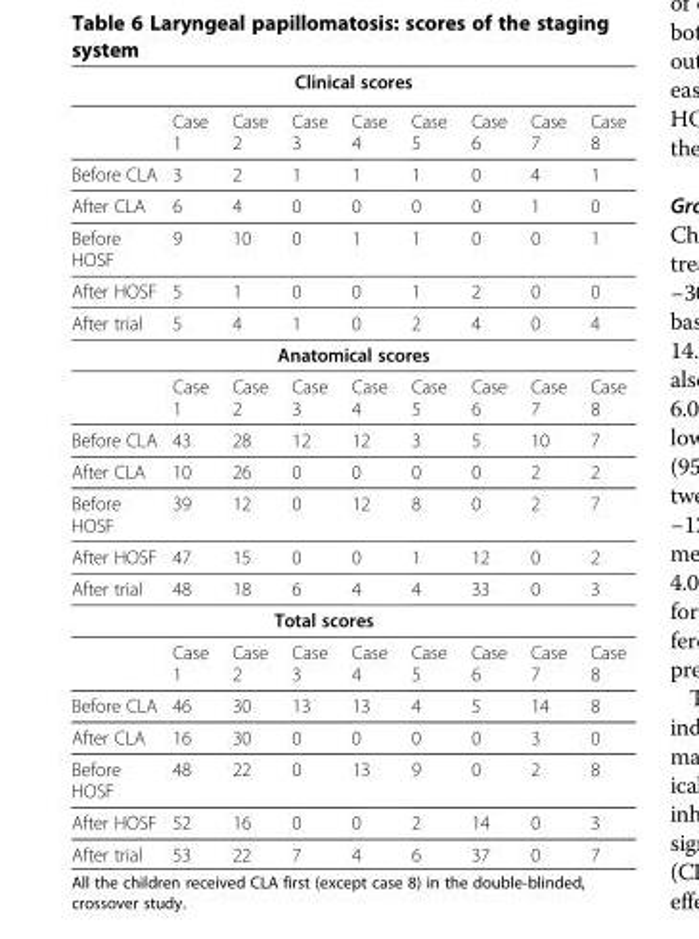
<table><thead><tr><td colspan="9">Clinical scores</td></tr><tr><td></td><td>Case 1</td><td>Case 2</td><td>Case 3</td><td>Case 4</td><td>Case 5</td><td>Case 6</td><td>Case 7</td><td>Case 8</td></tr></thead><tbody><tr><td>Before CLA</td><td>3</td><td>2</td><td>1</td><td>1</td><td>1</td><td>0</td><td>4</td><td>1</td></tr><tr><td>After CLA</td><td>6</td><td>4</td><td>0</td><td>0</td><td>0</td><td>0</td><td>1</td><td>0</td></tr><tr><td>Before HOSF</td><td>9</td><td>10</td><td>0</td><td>1</td><td>1</td><td>0</td><td>0</td><td>1</td></tr><tr><td>After HOSF</td><td>5</td><td>1</td><td>0</td><td>0</td><td>1</td><td>2</td><td>0</td><td>0</td></tr><tr><td>After trial</td><td>5</td><td>4</td><td>1</td><td>0</td><td>2</td><td>4</td><td>0</td><td>4</td></tr><tr><td colspan="9">Anatomical scores</td></tr><tr><td></td><td>Case 1</td><td>Case 2</td><td>Case 3</td><td>Case 4</td><td>Case 5</td><td>Case 6</td><td>Case 7</td><td>Case 8</td></tr><tr><td>Before CLA</td><td>43</td><td>28</td><td>12</td><td>12</td><td>3</td><td>5</td><td>10</td><td>7</td></tr><tr><td>After CLA</td><td>10</td><td>26</td><td>0</td><td>0</td><td>0</td><td>0</td><td>2</td><td>2</td></tr><tr><td>Before HOSF</td><td>39</td><td>12</td><td>0</td><td>12</td><td>8</td><td>0</td><td>2</td><td>7</td></tr><tr><td>After HOSF</td><td>47</td><td>15</td><td>0</td><td>0</td><td>1</td><td>12</td><td>0</td><td>2</td></tr><tr><td>After trial</td><td>48</td><td>18</td><td>6</td><td>4</td><td>4</td><td>33</td><td>0</td><td>3</td></tr><tr><td colspan="9">Total scores</td></tr><tr><td></td><td>Case 1</td><td>Case 2</td><td>Case 3</td><td>Case 4</td><td>Case 5</td><td>Case 6</td><td>Case 7</td><td>Case 8</td></tr><tr><td>Before CLA</td><td>46</td><td>30</td><td>13</td><td>13</td><td>4</td><td>5</td><td>14</td><td>8</td></tr><tr><td>After CLA</td><td>16</td><td>30</td><td>0</td><td>0</td><td>0</td><td>0</td><td>3</td><td>0</td></tr><tr><td>Before HOSF</td><td>48</td><td>22</td><td>0</td><td>13</td><td>9</td><td>0</td><td>2</td><td>8</td></tr><tr><td>After HOSF</td><td>52</td><td>16</td><td>0</td><td>0</td><td>2</td><td>14</td><td>0</td><td>3</td></tr><tr><td>After trial</td><td>53</td><td>22</td><td>7</td><td>4</td><td>6</td><td>37</td><td>0</td><td>7</td></tr></tbody></table>